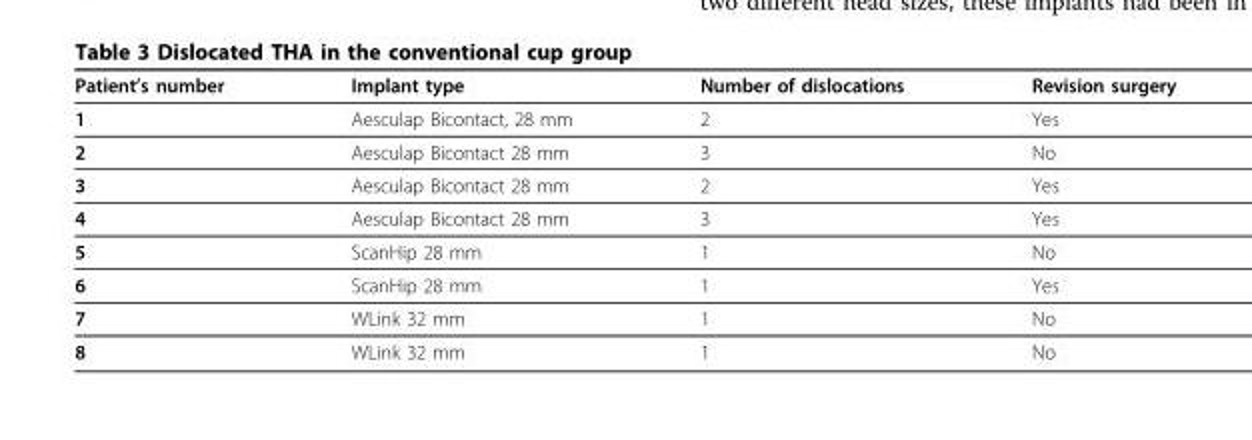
<table><thead><tr><td>Patient’s number</td><td>Implant type</td><td>Number of dislocations</td><td>Revision surgery</td></tr></thead><tbody><tr><td>1</td><td>Aesculap Bicontact, 28 mm</td><td>2</td><td>Yes</td></tr><tr><td>2</td><td>Aesculap Bicontact 28 mm</td><td>3</td><td>No</td></tr><tr><td>3</td><td>Aesculap Bicontact 28 mm</td><td>2</td><td>Yes</td></tr><tr><td>4</td><td>Aesculap Bicontact 28 mm</td><td>3</td><td>Yes</td></tr><tr><td>5</td><td>ScanHip 28 mm</td><td>1</td><td>No</td></tr><tr><td>6</td><td>ScanHip 28 mm</td><td>1</td><td>Yes</td></tr><tr><td>7</td><td>WLink 32 mm</td><td>1</td><td>No</td></tr><tr><td>8</td><td>WLink 32 mm</td><td>1</td><td>No</td></tr></tbody></table>